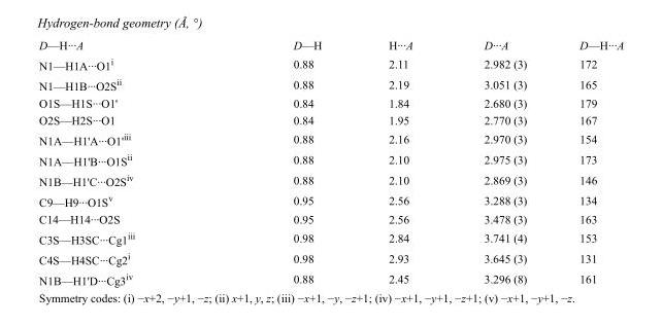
<table><tbody><tr><td>D—H···A</td><td>D—H</td><td>H···A</td><td>D···A</td><td>D—H···A</td></tr><tr><td>N1—H1A···O1<sup>i</sup></td><td>0.88</td><td>2.11</td><td>2.982 (3)</td><td>172</td></tr><tr><td>N1—H1B···O2S<sup>ii</sup></td><td>0.88</td><td>2.19</td><td>3.051 (3)</td><td>165</td></tr><tr><td>O1S—H1S···O1&#x27;</td><td>0.84</td><td>1.84</td><td>2.680 (3)</td><td>179</td></tr><tr><td>O2S—H2S···O1</td><td>0.84</td><td>1.95</td><td>2.770 (3)</td><td>167</td></tr><tr><td>N1A—H1&#x27;A···O1&#x27;<sup>iii</sup></td><td>0.88</td><td>2.16</td><td>2.970 (3)</td><td>154</td></tr><tr><td>N1A—H1&#x27;B···O1S<sup>ii</sup></td><td>0.88</td><td>2.10</td><td>2.975 (3)</td><td>173</td></tr><tr><td>N1B—H1&#x27;C···O2S<sup>iv</sup></td><td>0.88</td><td>2.10</td><td>2.869 (3)</td><td>146</td></tr><tr><td>C9—H9···O1S<sup>v</sup></td><td>0.95</td><td>2.56</td><td>3.288 (3)</td><td>134</td></tr><tr><td>C14—H14···O2S</td><td>0.95</td><td>2.56</td><td>3.478 (3)</td><td>163</td></tr><tr><td>C3S—H3SC···Cg1<sup>iii</sup></td><td>0.98</td><td>2.84</td><td>3.741 (4)</td><td>153</td></tr><tr><td>C4S—H4SC···Cg2<sup>i</sup></td><td>0.98</td><td>2.93</td><td>3.645 (3)</td><td>131</td></tr><tr><td>N1B—H1&#x27;D···Cg3<sup>iv</sup></td><td>0.88</td><td>2.45</td><td>3.296 (8)</td><td>161</td></tr></tbody></table>